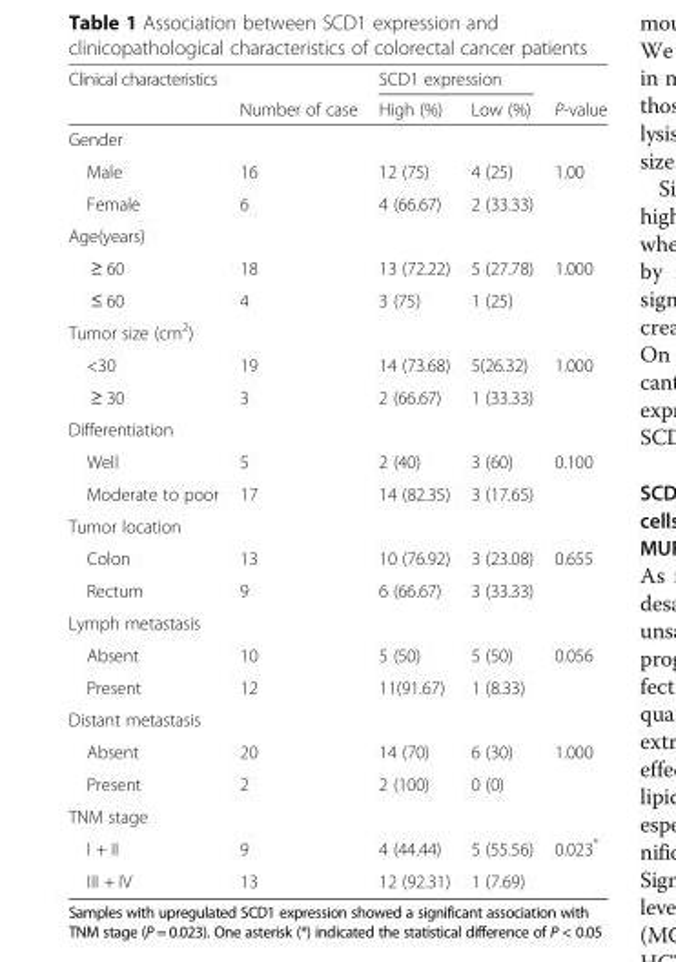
<table><thead><tr><td rowspan="2">Clinical characteristics</td><td rowspan="2">Number of case</td><td colspan="2">SCD1 expression</td><td rowspan="2">P-value</td></tr><tr><td>High (%)</td><td>Low (%)</td></tr></thead><tbody><tr><td colspan="5">Gender</td></tr><tr><td>Male</td><td>16</td><td>12 (75)</td><td>4 (25)</td><td rowspan="2">1.00</td></tr><tr><td>Female</td><td>6</td><td>4 (66.67)</td><td>2 (33.33)</td></tr><tr><td colspan="5">Age(years)</td></tr><tr><td>≥ 60</td><td>18</td><td>13 (72.22)</td><td>5 (27.78)</td><td rowspan="2">1.000</td></tr><tr><td>≤ 60</td><td>4</td><td>3 (75)</td><td>1 (25)</td></tr><tr><td colspan="5">Tumor size (cm<sup>2</sup>)</td></tr><tr><td>&lt;30</td><td>19</td><td>14 (73.68)</td><td>5(26.32)</td><td rowspan="2">1.000</td></tr><tr><td>≥ 30</td><td>3</td><td>2 (66.67)</td><td>1 (33.33)</td></tr><tr><td colspan="5">Differentiation</td></tr><tr><td>Well</td><td>5</td><td>2 (40)</td><td>3 (60)</td><td rowspan="2">0.100</td></tr><tr><td>Moderate to poor</td><td>17</td><td>14 (82.35)</td><td>3 (17.65)</td></tr><tr><td colspan="5">Tumor location</td></tr><tr><td>Colon</td><td>13</td><td>10 (76.92)</td><td>3 (23.08)</td><td rowspan="2">0.655</td></tr><tr><td>Rectum</td><td>9</td><td>6 (66.67)</td><td>3 (33.33)</td></tr><tr><td colspan="5">Lymph metastasis</td></tr><tr><td>Absent</td><td>10</td><td>5 (50)</td><td>5 (50)</td><td rowspan="2">0.056</td></tr><tr><td>Present</td><td>12</td><td>11(91.67)</td><td>1 (8.33)</td></tr><tr><td colspan="5">Distant metastasis</td></tr><tr><td>Absent</td><td>20</td><td>14 (70)</td><td>6 (30)</td><td rowspan="2">1.000</td></tr><tr><td>Present</td><td>2</td><td>2 (100)</td><td>0 (0)</td></tr><tr><td colspan="5">TNM stage</td></tr><tr><td>I + II</td><td>9</td><td>4 (44.44)</td><td>5 (55.56)</td><td rowspan="2">0.023*</td></tr><tr><td>III + IV</td><td>13</td><td>12 (92.31)</td><td>1 (7.69)</td></tr></tbody></table>